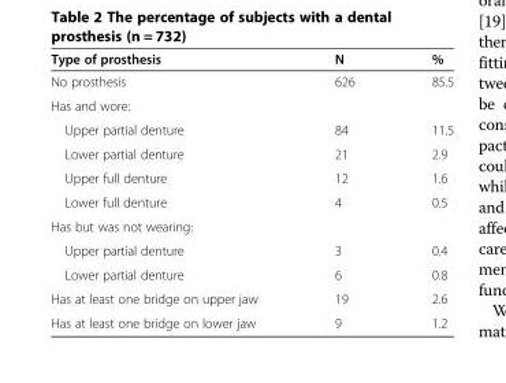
<table><thead><tr><td>Type of prosthesis</td><td>N</td><td>%</td></tr></thead><tbody><tr><td>No prosthesis</td><td>626</td><td>85.5</td></tr><tr><td colspan="3">Has and wore:</td></tr><tr><td>Upper partial denture</td><td>84</td><td>11.5</td></tr><tr><td>Lower partial denture</td><td>21</td><td>2.9</td></tr><tr><td>Upper full denture</td><td>12</td><td>1.6</td></tr><tr><td>Lower full denture</td><td>4</td><td>0.5</td></tr><tr><td colspan="3">Has but was not wearing:</td></tr><tr><td>Upper partial denture</td><td>3</td><td>0.4</td></tr><tr><td>Lower partial denture</td><td>6</td><td>0.8</td></tr><tr><td>Has at least one bridge on upper jaw</td><td>19</td><td>2.6</td></tr><tr><td>Has at least one bridge on lower jaw</td><td>9</td><td>1.2</td></tr></tbody></table>